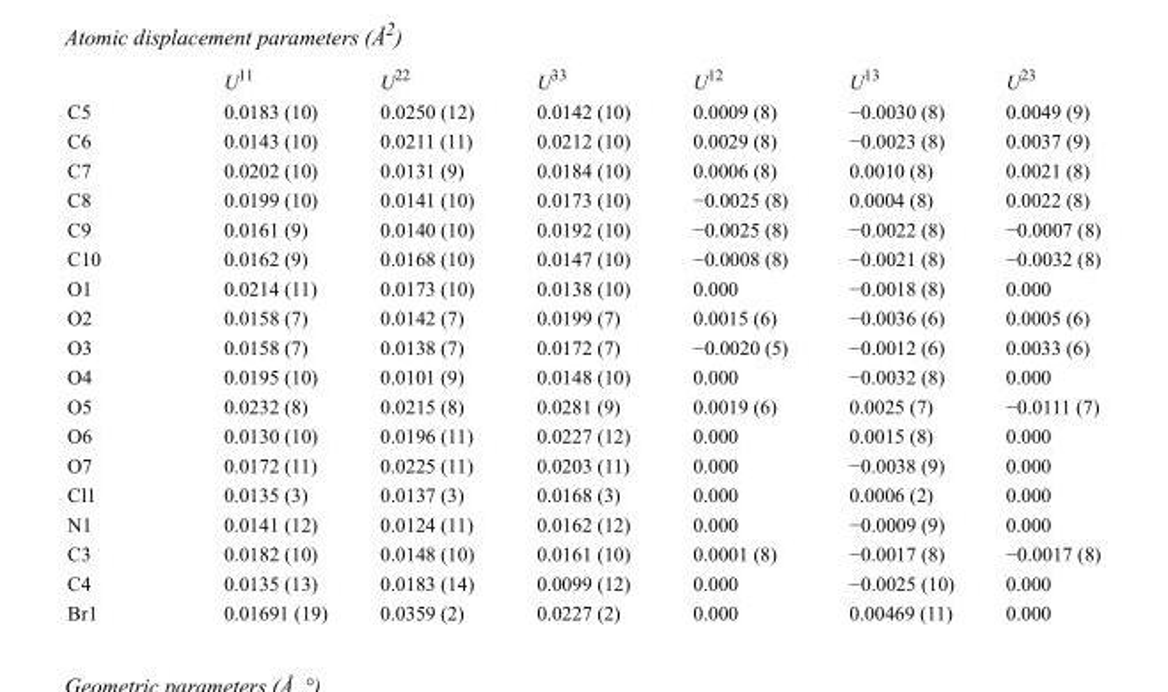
<table><thead><tr><td></td><td>U<sup>11</sup></td><td>U<sup>22</sup></td><td>U<sup>33</sup></td><td>U<sup>12</sup></td><td>U<sup>13</sup></td><td>U<sup>23</sup></td></tr></thead><tbody><tr><td>C5</td><td>0.0183 (10)</td><td>0.0250 (12)</td><td>0.0142 (10)</td><td>0.0009 (8)</td><td>−0.0030 (8)</td><td>0.0049 (9)</td></tr><tr><td>C6</td><td>0.0143 (10)</td><td>0.0211 (11)</td><td>0.0212 (10)</td><td>0.0029 (8)</td><td>−0.0023 (8)</td><td>0.0037 (9)</td></tr><tr><td>C7</td><td>0.0202 (10)</td><td>0.0131 (9)</td><td>0.0184 (10)</td><td>0.0006 (8)</td><td>0.0010 (8)</td><td>0.0021 (8)</td></tr><tr><td>C8</td><td>0.0199 (10)</td><td>0.0141 (10)</td><td>0.0173 (10)</td><td>−0.0025 (8)</td><td>0.0004 (8)</td><td>0.0022 (8)</td></tr><tr><td>C9</td><td>0.0161 (9)</td><td>0.0140 (10)</td><td>0.0192 (10)</td><td>−0.0025 (8)</td><td>−0.0022 (8)</td><td>−0.0007 (8)</td></tr><tr><td>C10</td><td>0.0162 (9)</td><td>0.0168 (10)</td><td>0.0147 (10)</td><td>−0.0008 (8)</td><td>−0.0021 (8)</td><td>−0.0032 (8)</td></tr><tr><td>O1</td><td>0.0214 (11)</td><td>0.0173 (10)</td><td>0.0138 (10)</td><td>0.000</td><td>−0.0018 (8)</td><td>0.000</td></tr><tr><td>O2</td><td>0.0158 (7)</td><td>0.0142 (7)</td><td>0.0199 (7)</td><td>0.0015 (6)</td><td>−0.0036 (6)</td><td>0.0005 (6)</td></tr><tr><td>O3</td><td>0.0158 (7)</td><td>0.0138 (7)</td><td>0.0172 (7)</td><td>−0.0020 (5)</td><td>−0.0012 (6)</td><td>0.0033 (6)</td></tr><tr><td>O4</td><td>0.0195 (10)</td><td>0.0101 (9)</td><td>0.0148 (10)</td><td>0.000</td><td>−0.0032 (8)</td><td>0.000</td></tr><tr><td>O5</td><td>0.0232 (8)</td><td>0.0215 (8)</td><td>0.0281 (9)</td><td>0.0019 (6)</td><td>0.0025 (7)</td><td>−0.0111 (7)</td></tr><tr><td>O6</td><td>0.0130 (10)</td><td>0.0196 (11)</td><td>0.0227 (12)</td><td>0.000</td><td>0.0015 (8)</td><td>0.000</td></tr><tr><td>O7</td><td>0.0172 (11)</td><td>0.0225 (11)</td><td>0.0203 (11)</td><td>0.000</td><td>−0.0038 (9)</td><td>0.000</td></tr><tr><td>Cl1</td><td>0.0135 (3)</td><td>0.0137 (3)</td><td>0.0168 (3)</td><td>0.000</td><td>0.0006 (2)</td><td>0.000</td></tr><tr><td>N1</td><td>0.0141 (12)</td><td>0.0124 (11)</td><td>0.0162 (12)</td><td>0.000</td><td>−0.0009 (9)</td><td>0.000</td></tr><tr><td>C3</td><td>0.0182 (10)</td><td>0.0148 (10)</td><td>0.0161 (10)</td><td>0.0001 (8)</td><td>−0.0017 (8)</td><td>−0.0017 (8)</td></tr><tr><td>C4</td><td>0.0135 (13)</td><td>0.0183 (14)</td><td>0.0099 (12)</td><td>0.000</td><td>−0.0025 (10)</td><td>0.000</td></tr><tr><td>Br1</td><td>0.01691 (19)</td><td>0.0359 (2)</td><td>0.0227 (2)</td><td>0.000</td><td>0.00469 (11)</td><td>0.000</td></tr></tbody></table>